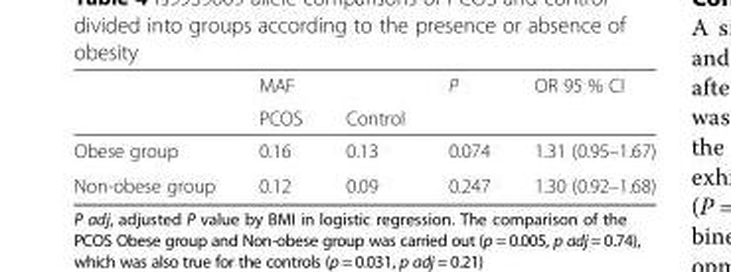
<table><thead><tr><td rowspan="2"></td><td colspan="2">MAF</td><td rowspan="2">P</td><td rowspan="2">OR 95 % CI</td></tr><tr><td>PCOS</td><td>Control</td></tr></thead><tbody><tr><td>Obese group</td><td>0.16</td><td>0.13</td><td>0.074</td><td>1.31 (0.95–1.67)</td></tr><tr><td>Non-obese group</td><td>0.12</td><td>0.09</td><td>0.247</td><td>1.30 (0.92–1.68)</td></tr></tbody></table>